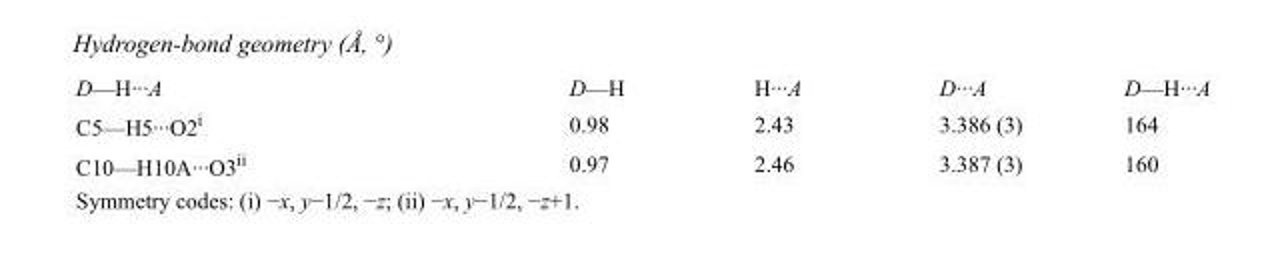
<table><tbody><tr><td>D—H···A</td><td>D—H</td><td>H···A</td><td>D···A</td><td>D—H···A</td></tr><tr><td>C5—H5···O2<sup>i</sup></td><td>0.98</td><td>2.43</td><td>3.386 (3)</td><td>164</td></tr><tr><td>C10—H10A···O3<sup>ii</sup></td><td>0.97</td><td>2.46</td><td>3.387 (3)</td><td>160</td></tr></tbody></table>